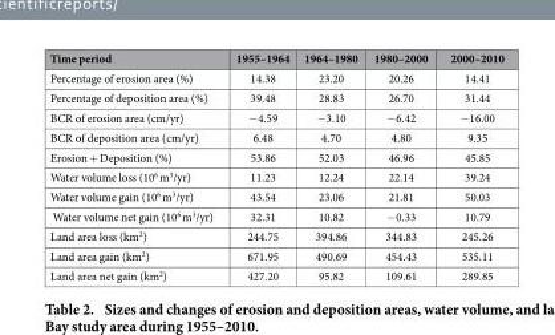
<table><thead><tr><td>Time period</td><td>1955–1964</td><td>1964–1980</td><td>1980–2000</td><td>2000–2010</td></tr></thead><tbody><tr><td>Percentage of erosion area (%)</td><td>14.38</td><td>23.20</td><td>20.26</td><td>14.41</td></tr><tr><td>Percentage of deposition area (%)</td><td>39.48</td><td>28.83</td><td>26.70</td><td>31.44</td></tr><tr><td>BCR of erosion area (cm/yr)</td><td>− 4.59</td><td>− 3.10</td><td>− 6.42</td><td>− 16.00</td></tr><tr><td>BCR of deposition area (cm/yr)</td><td>6.48</td><td>4.70</td><td>4.80</td><td>9.35</td></tr><tr><td>Erosion + Deposition (%)</td><td>53.86</td><td>52.03</td><td>46.96</td><td>45.85</td></tr><tr><td>Water volume loss (10<sup>6</sup> m<sup>3</sup>/yr)</td><td>11.23</td><td>12.24</td><td>22.14</td><td>39.24</td></tr><tr><td>Water volume gain (10<sup>6</sup> m<sup>3</sup>/yr)</td><td>43.54</td><td>23.06</td><td>21.81</td><td>50.03</td></tr><tr><td>Water volume net gain (10<sup>6</sup> m<sup>3</sup>/yr)</td><td>32.31</td><td>10.82</td><td>− 0.33</td><td>10.79</td></tr><tr><td>Land area loss (km<sup>2</sup>)</td><td>244.75</td><td>394.86</td><td>344.83</td><td>245.26</td></tr><tr><td>Land area gain (km<sup>2</sup>)</td><td>671.95</td><td>490.69</td><td>454.43</td><td>535.11</td></tr><tr><td>Land area net gain (km<sup>2</sup>)</td><td>427.20</td><td>95.82</td><td>109.61</td><td>289.85</td></tr></tbody></table>